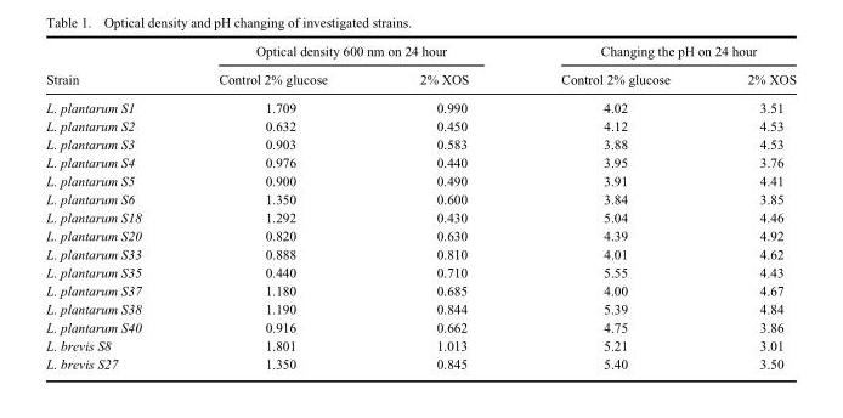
<table><thead><tr><td rowspan="2">Strain</td><td colspan="2">Optical density 600 nm on 24 hour</td><td colspan="2">Changing the pH on 24 hour</td></tr><tr><td>Control 2% glucose</td><td>2% XOS</td><td>Control 2% glucose</td><td>2% XOS</td></tr></thead><tbody><tr><td>L. plantarum S1</td><td>1.709</td><td>0.990</td><td>4.02</td><td>3.51</td></tr><tr><td>L. plantarum S2</td><td>0.632</td><td>0.450</td><td>4.12</td><td>4.53</td></tr><tr><td>L. plantarum S3</td><td>0.903</td><td>0.583</td><td>3.88</td><td>4.53</td></tr><tr><td>L. plantarum S4</td><td>0.976</td><td>0.440</td><td>3.95</td><td>3.76</td></tr><tr><td>L. plantarum S5</td><td>0.900</td><td>0.490</td><td>3.91</td><td>4.41</td></tr><tr><td>L. plantarum S6</td><td>1.350</td><td>0.600</td><td>3.84</td><td>3.85</td></tr><tr><td>L. plantarum S18</td><td>1.292</td><td>0.430</td><td>5.04</td><td>4.46</td></tr><tr><td>L. plantarum S20</td><td>0.820</td><td>0.630</td><td>4.39</td><td>4.92</td></tr><tr><td>L. plantarum S33</td><td>0.888</td><td>0.810</td><td>4.01</td><td>4.62</td></tr><tr><td>L. plantarum S35</td><td>0.440</td><td>0.710</td><td>5.55</td><td>4.43</td></tr><tr><td>L. plantarum S37</td><td>1.180</td><td>0.685</td><td>4.00</td><td>4.67</td></tr><tr><td>L. plantarum S38</td><td>1.190</td><td>0.844</td><td>5.39</td><td>4.84</td></tr><tr><td>L. plantarum S40</td><td>0.916</td><td>0.662</td><td>4.75</td><td>3.86</td></tr><tr><td>L. brevis S8</td><td>1.801</td><td>1.013</td><td>5.21</td><td>3.01</td></tr><tr><td>L. brevis S27</td><td>1.350</td><td>0.845</td><td>5.40</td><td>3.50</td></tr></tbody></table>